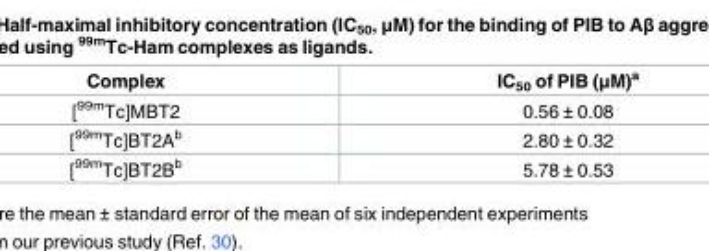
<table><thead><tr><td>Complex</td><td>IC<sub>50</sub> of PIB (μM)<sup>a</sup></td></tr></thead><tbody><tr><td>[<sup>99m</sup>Tc]MBT2</td><td>0.56 ± 0.08</td></tr><tr><td>[<sup>99m</sup>Tc]BT2A<sup>b</sup></td><td>2.80 ± 0.32</td></tr><tr><td>[<sup>99m</sup>Tc]BT2B<sup>b</sup></td><td>5.78 ± 0.53</td></tr></tbody></table>